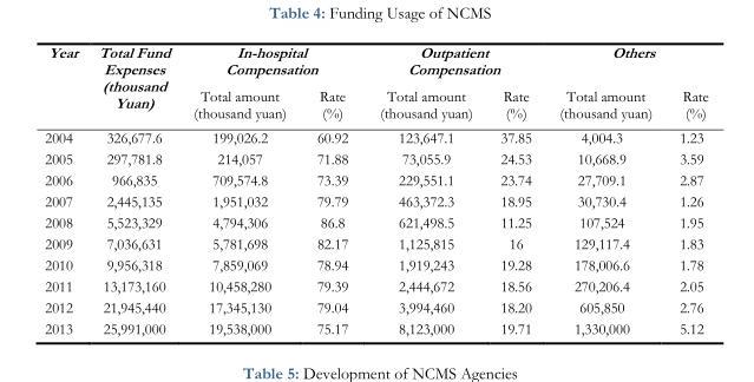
<table><thead><tr><td rowspan="2">Year</td><td rowspan="2">Total Fund Expenses (thousand Yuan)</td><td colspan="2">In-hospital Compensation</td><td colspan="2">Outpatient Compensation</td><td colspan="2">Others</td></tr><tr><td>Total amount (thousand yuan)</td><td>Rate (%)</td><td>Total amount (thousand yuan)</td><td>Rate (%)</td><td>Total amount (thousand yuan)</td><td>Rate (%)</td></tr></thead><tbody><tr><td>2004</td><td>326,677.6</td><td>199,026.2</td><td>60.92</td><td>123,647.1</td><td>37.85</td><td>4,004.3</td><td>1.23</td></tr><tr><td>2005</td><td>297,781.8</td><td>214,057</td><td>71.88</td><td>73,055.9</td><td>24.53</td><td>10,668.9</td><td>3.59</td></tr><tr><td>2006</td><td>966,835</td><td>709,574.8</td><td>73.39</td><td>229,551.1</td><td>23.74</td><td>27,709.1</td><td>2.87</td></tr><tr><td>2007</td><td>2,445,135</td><td>1,951,032</td><td>79.79</td><td>463,372.3</td><td>18.95</td><td>30,730.4</td><td>1.26</td></tr><tr><td>2008</td><td>5,523,329</td><td>4,794,306</td><td>86.8</td><td>621,498.5</td><td>11.25</td><td>107,524</td><td>1.95</td></tr><tr><td>2009</td><td>7,036,631</td><td>5,781,698</td><td>82.17</td><td>1,125,815</td><td>16</td><td>129,117.4</td><td>1.83</td></tr><tr><td>2010</td><td>9,956,318</td><td>7,859,069</td><td>78.94</td><td>1,919,243</td><td>19.28</td><td>178,006.6</td><td>1.78</td></tr><tr><td>2011</td><td>13,173,160</td><td>10,458,280</td><td>79.39</td><td>2,444,672</td><td>18.56</td><td>270,206.4</td><td>2.05</td></tr><tr><td>2012</td><td>21,945,440</td><td>17,345,130</td><td>79.04</td><td>3,994,460</td><td>18.20</td><td>605,850</td><td>2.76</td></tr><tr><td>2013</td><td>25,991,000</td><td>19,538,000</td><td>75.17</td><td>8,123,000</td><td>19.71</td><td>1,330,000</td><td>5.12</td></tr></tbody></table>